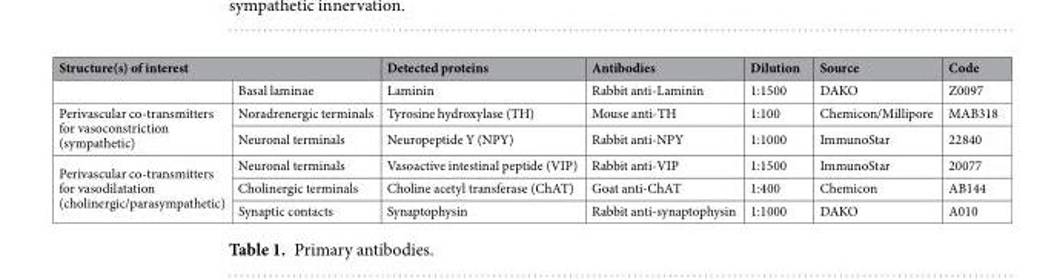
<table><thead><tr><td colspan="2">Structure(s) of interest</td><td rowspan="2">Detected proteins Laminin</td><td rowspan="2">Antibodies Rabbit anti-Laminin</td><td rowspan="2">Dilution 1:1500</td><td rowspan="2">Source DAKO</td><td rowspan="2">Code Z0097</td></tr><tr><td></td><td>Basal laminae</td></tr></thead><tbody><tr><td rowspan="2">Perivascular co-transmitters for vasoconstriction (sympathetic)</td><td>Noradrenergic terminals</td><td>Tyrosine hydroxylase (TH)</td><td>Mouse anti-TH</td><td>1:100</td><td>Chemicon/Millipore</td><td>MAB318</td></tr><tr><td>Neuronal terminals</td><td>Neuropeptide Y (NPY)</td><td>Rabbit anti-NPY</td><td>1:1000</td><td>ImmunoStar</td><td>22840</td></tr><tr><td rowspan="3">Perivascular co-transmitters for vasodilatation (cholinergic/parasympathetic)</td><td>Neuronal terminals</td><td>Vasoactive intestinal peptide (VIP)</td><td>Rabbit anti-VIP</td><td>1:1500</td><td>ImmunoStar</td><td>20077</td></tr><tr><td>Cholinergic terminals</td><td>Choline acetyl transferase (ChAT)</td><td>Goat anti-ChAT</td><td>1:400</td><td>Chemicon</td><td>AB144</td></tr><tr><td>Synaptic contacts</td><td>Synaptophysin</td><td>Rabbit anti-synaptophysin</td><td>1:1000</td><td>DAKO</td><td>A010</td></tr></tbody></table>